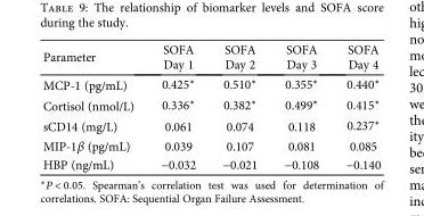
<table><thead><tr><td>Parameter</td><td>SOFA Day 1</td><td>SOFA Day 2</td><td>SOFA Day 3</td><td>SOFA Day 4</td></tr></thead><tbody><tr><td>MCP-1 (pg/mL)</td><td>0.425∗</td><td>0.510∗</td><td>0.355∗</td><td>0.440∗</td></tr><tr><td>Cortisol (nmol/L)</td><td>0.336∗</td><td>0.382∗</td><td>0.499∗</td><td>0.415∗</td></tr><tr><td>sCD14 (mg/L)</td><td>0.061</td><td>0.074</td><td>0.118</td><td>0.237∗</td></tr><tr><td>MIP-1β (pg/mL)</td><td>0.039</td><td>0.107</td><td>0.081</td><td>0.085</td></tr><tr><td>HBP (ng/mL)</td><td>−0.032</td><td>−0.021</td><td>−0.108</td><td>−0.140</td></tr></tbody></table>